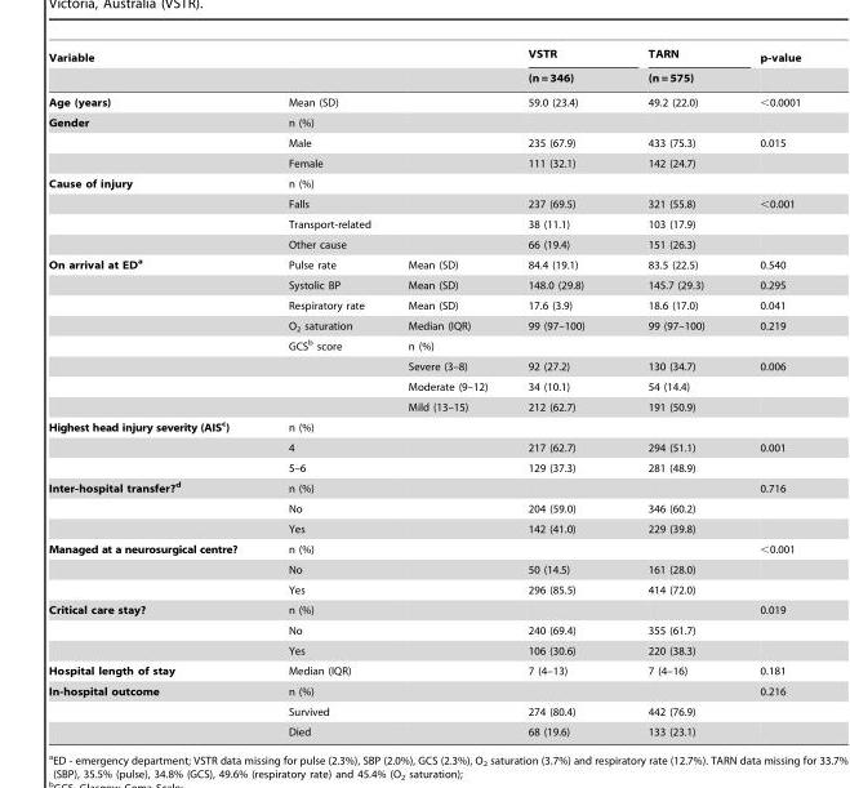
<table><thead><tr><td rowspan="2">Variable</td><td rowspan="2"></td><td rowspan="2"></td><td rowspan="2">VSTR (n = 346)</td><td rowspan="2">TARN (n = 575)</td><td rowspan="2">p-value</td></tr><tr></tr></thead><tbody><tr><td>Age (years)</td><td>Mean (SD)</td><td></td><td>59.0 (23.4)</td><td>49.2 (22.0)</td><td>&lt;0.0001</td></tr><tr><td rowspan="3">Gender</td><td>n (%)</td><td></td><td></td><td></td><td></td></tr><tr><td>Male</td><td></td><td>235 (67.9)</td><td>433 (75.3)</td><td>0.015</td></tr><tr><td>Female</td><td></td><td>111 (32.1)</td><td>142 (24.7)</td><td></td></tr><tr><td rowspan="4">Cause of injury</td><td>n (%)</td><td></td><td></td><td></td><td></td></tr><tr><td>Falls</td><td></td><td>237 (69.5)</td><td>321 (55.8)</td><td>&lt;0.001</td></tr><tr><td>Transport-related</td><td></td><td>38 (11.1)</td><td>103 (17.9)</td><td></td></tr><tr><td>Other cause</td><td></td><td>66 (19.4)</td><td>151 (26.3)</td><td></td></tr><tr><td rowspan="8">On arrival at EDa</td><td>Pulse rate</td><td>Mean (SD)</td><td>84.4 (19.1)</td><td>83.5 (22.5)</td><td>0.540</td></tr><tr><td>Systolic BP</td><td>Mean (SD)</td><td>148.0 (29.8)</td><td>145.7 (29.3)</td><td>0.295</td></tr><tr><td>Respiratory rate</td><td>Mean (SD)</td><td>17.6 (3.9)</td><td>18.6 (17.0)</td><td>0.041</td></tr><tr><td>O<sub>2</sub> saturation</td><td>Median (IQR)</td><td>99 (97–100)</td><td>99 (97–100)</td><td>0.219</td></tr><tr><td>GCS<sup>b</sup> score</td><td>n (%)</td><td></td><td></td><td></td></tr><tr><td></td><td>Severe (3–8)</td><td>92 (27.2)</td><td>130 (34.7)</td><td>0.006</td></tr><tr><td></td><td>Moderate (9–12)</td><td>34 (10.1)</td><td>54 (14.4)</td><td></td></tr><tr><td></td><td>Mild (13–15)</td><td>212 (62.7)</td><td>191 (50.9)</td><td></td></tr><tr><td rowspan="3">Highest head injury severity (AISc)</td><td>n (%)</td><td></td><td></td><td></td><td></td></tr><tr><td>4</td><td></td><td>217 (62.7)</td><td>294 (51.1)</td><td>0.001</td></tr><tr><td>5–6</td><td></td><td>129 (37.3)</td><td>281 (48.9)</td><td></td></tr><tr><td rowspan="3">Inter-hospital transfer?d</td><td>n (%)</td><td></td><td></td><td></td><td>0.716</td></tr><tr><td>No</td><td></td><td>204 (59.0)</td><td>346 (60.2)</td><td></td></tr><tr><td>Yes</td><td></td><td>142 (41.0)</td><td>229 (39.8)</td><td></td></tr><tr><td rowspan="3">Managed at a neurosurgical centre?</td><td>n (%)</td><td></td><td></td><td></td><td>&lt;0.001</td></tr><tr><td>No</td><td></td><td>50 (14.5)</td><td>161 (28.0)</td><td></td></tr><tr><td>Yes</td><td></td><td>296 (85.5)</td><td>414 (72.0)</td><td></td></tr><tr><td rowspan="3">Critical care stay?</td><td>n (%)</td><td></td><td></td><td></td><td>0.019</td></tr><tr><td>No</td><td></td><td>240 (69.4)</td><td>355 (61.7)</td><td></td></tr><tr><td>Yes</td><td></td><td>106 (30.6)</td><td>220 (38.3)</td><td></td></tr><tr><td>Hospital length of stay</td><td>Median (IQR)</td><td></td><td>7 (4–13)</td><td>7 (4–16)</td><td>0.181</td></tr><tr><td rowspan="3">In-hospital outcome</td><td>n (%)</td><td></td><td></td><td></td><td>0.216</td></tr><tr><td>Survived</td><td></td><td>274 (80.4)</td><td>442 (76.9)</td><td></td></tr><tr><td>Died</td><td></td><td>68 (19.6)</td><td>133 (23.1)</td><td></td></tr></tbody></table>